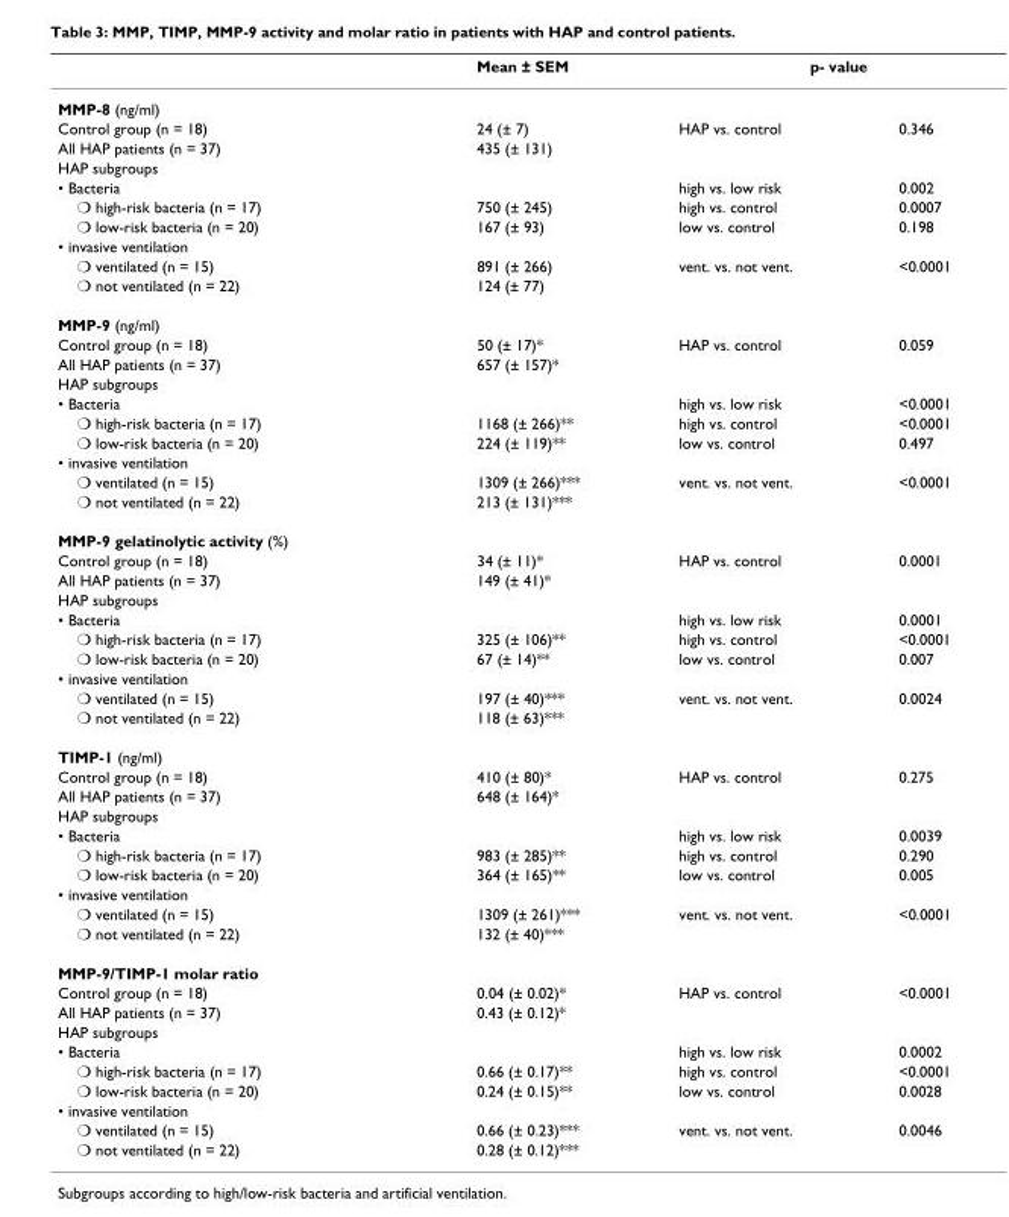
<table><thead><tr><td rowspan="2">MMP-8 (ng/ml)</td><td rowspan="2">Mean ± SEM</td><td colspan="2">p- value</td></tr><tr><td></td><td></td></tr></thead><tbody><tr><td>Control group (n = 18)</td><td>24 (± 7)</td><td>HAP vs. control</td><td>0.346</td></tr><tr><td>All HAP patients (n = 37)</td><td>435 (± 131)</td><td></td><td></td></tr><tr><td colspan="4">HAP subgroups</td></tr><tr><td>• Bacteria</td><td></td><td>high vs. low risk</td><td>0.002</td></tr><tr><td>❍ high-risk bacteria (n = 17)</td><td>750 (± 245)</td><td>high vs. control</td><td>0.0007</td></tr><tr><td>❍ low-risk bacteria (n = 20)</td><td>167 (± 93)</td><td>low vs. control</td><td>0.198</td></tr><tr><td colspan="4">• invasive ventilation</td></tr><tr><td>❍ ventilated (n = 15)</td><td>891 (± 266)</td><td>vent. vs. not vent.</td><td>&lt;0.0001</td></tr><tr><td>❍ not ventilated (n = 22)</td><td>124 (± 77)</td><td></td><td></td></tr><tr><td colspan="4">MMP-9 (ng/ml)</td></tr><tr><td>Control group (n = 18)</td><td>50 (± 17)*</td><td>HAP vs. control</td><td>0.059</td></tr><tr><td>All HAP patients (n = 37)</td><td>657 (± 157)*</td><td></td><td></td></tr><tr><td colspan="4">HAP subgroups</td></tr><tr><td>• Bacteria</td><td></td><td>high vs. low risk</td><td>&lt;0.0001</td></tr><tr><td>❍ high-risk bacteria (n = 17)</td><td>1168 (± 266)**</td><td>high vs. control</td><td>&lt;0.0001</td></tr><tr><td>❍ low-risk bacteria (n = 20)</td><td>224 (± 119)**</td><td>low vs. control</td><td>0.497</td></tr><tr><td colspan="4">• invasive ventilation</td></tr><tr><td>❍ ventilated (n = 15)</td><td>1309 (± 266)***</td><td>vent. vs. not vent.</td><td>&lt;0.0001</td></tr><tr><td>❍ not ventilated (n = 22)</td><td>213 (± 131)***</td><td></td><td></td></tr><tr><td colspan="4">MMP-9 gelatinolytic activity (%)</td></tr><tr><td>Control group (n = 18)</td><td>34 (± 11)*</td><td>HAP vs. control</td><td>0.0001</td></tr><tr><td>All HAP patients (n = 37)</td><td>149 (± 41)*</td><td></td><td></td></tr><tr><td colspan="4">HAP subgroups</td></tr><tr><td>• Bacteria</td><td></td><td>high vs. low risk</td><td>0.0001</td></tr><tr><td>❍ high-risk bacteria (n = 17)</td><td>325 (± 106)**</td><td>high vs. control</td><td>&lt;0.0001</td></tr><tr><td>❍ low-risk bacteria (n = 20)</td><td>67 (± 14)**</td><td>low vs. control</td><td>0.007</td></tr><tr><td colspan="4">• invasive ventilation</td></tr><tr><td>❍ ventilated (n = 15)</td><td>197 (± 40)***</td><td>vent. vs. not vent.</td><td>0.0024</td></tr><tr><td>❍ not ventilated (n = 22)</td><td>118 (± 63)***</td><td></td><td></td></tr><tr><td colspan="4">TIMP-1 (ng/ml)</td></tr><tr><td>Control group (n = 18)</td><td>410 (± 80)*</td><td>HAP vs. control</td><td>0.275</td></tr><tr><td>All HAP patients (n = 37)</td><td>648 (± 164)*</td><td></td><td></td></tr><tr><td colspan="4">HAP subgroups</td></tr><tr><td>• Bacteria</td><td></td><td>high vs. low risk</td><td>0.0039</td></tr><tr><td>❍ high-risk bacteria (n = 17)</td><td>983 (± 285)**</td><td>high vs. control</td><td>0.290</td></tr><tr><td>❍ low-risk bacteria (n = 20)</td><td>364 (± 165)**</td><td>low vs. control</td><td>0.005</td></tr><tr><td colspan="4">• invasive ventilation</td></tr><tr><td>❍ ventilated (n = 15)</td><td>1309 (± 261)***</td><td>vent. vs. not vent.</td><td>&lt;0.0001</td></tr><tr><td>❍ not ventilated (n = 22)</td><td>132 (± 40)***</td><td></td><td></td></tr><tr><td colspan="4">MMP-9/TIMP-1 molar ratio</td></tr><tr><td>Control group (n = 18)</td><td>0.04 (± 0.02)*</td><td>HAP vs. control</td><td>&lt;0.0001</td></tr><tr><td>All HAP patients (n = 37)</td><td>0.43 (± 0.12)*</td><td></td><td></td></tr><tr><td colspan="4">HAP subgroups</td></tr><tr><td>• Bacteria</td><td></td><td>high vs. low risk</td><td>0.0002</td></tr><tr><td>❍ high-risk bacteria (n = 17)</td><td>0.66 (± 0.17)**</td><td>high vs. control</td><td>&lt;0.0001</td></tr><tr><td>❍ low-risk bacteria (n = 20)</td><td>0.24 (± 0.15)**</td><td>low vs. control</td><td>0.0028</td></tr><tr><td colspan="4">• invasive ventilation</td></tr><tr><td>❍ ventilated (n = 15)</td><td>0.66 (± 0.23)***</td><td>vent. vs. not vent.</td><td>0.0046</td></tr><tr><td>❍ not ventilated (n = 22)</td><td>0.28 (± 0.12)***</td><td></td><td></td></tr></tbody></table>